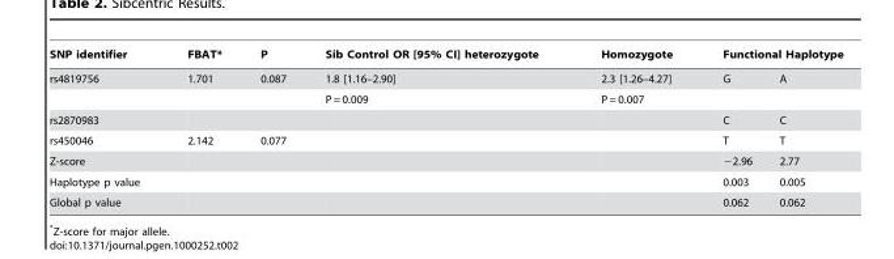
<table><thead><tr><td rowspan="2">SNP identifier rs4819756</td><td rowspan="2">FBAT* 1.701</td><td rowspan="2">P 0.087</td><td rowspan="2">Sib Control OR [95% CI] heterozygote 1.8 [1.16–2.90]</td><td rowspan="2">Homozygote 2.3 [1.26–4.27]</td><td colspan="2">Functional Haplotype</td></tr><tr><td>G</td><td>A</td></tr></thead><tbody><tr><td></td><td></td><td></td><td>P = 0.009</td><td>P = 0.007</td><td></td><td></td></tr><tr><td>rs2870983</td><td></td><td></td><td></td><td></td><td>C</td><td>C</td></tr><tr><td>rs450046</td><td>2.142</td><td>0.077</td><td></td><td></td><td>T</td><td>T</td></tr><tr><td>Z-score</td><td></td><td></td><td></td><td></td><td>−2.96</td><td>2.77</td></tr><tr><td>Haplotype p value</td><td></td><td></td><td></td><td></td><td>0.003</td><td>0.005</td></tr><tr><td>Global p value</td><td></td><td></td><td></td><td></td><td>0.062</td><td>0.062</td></tr></tbody></table>